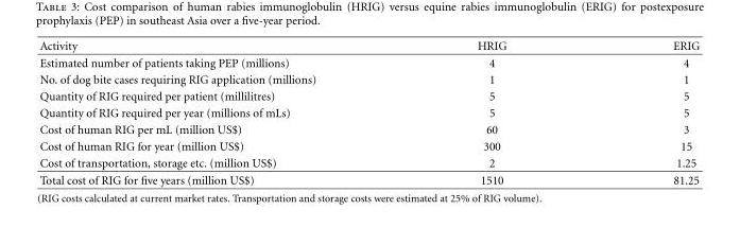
<table><thead><tr><td>Activity</td><td>HRIG</td><td>ERIG</td></tr></thead><tbody><tr><td>Estimated number of patients taking PEP (millions)</td><td>4</td><td>4</td></tr><tr><td>No. of dog bite cases requiring RIG application (millions)</td><td>1</td><td>1</td></tr><tr><td>Quantity of RIG required per patient (millilitres)</td><td>5</td><td>5</td></tr><tr><td>Quantity of RIG required per year (millions of mLs)</td><td>5</td><td>5</td></tr><tr><td>Cost of human RIG per mL (million US$)</td><td>60</td><td>3</td></tr><tr><td>Cost of human RIG for year (million US$)</td><td>300</td><td>15</td></tr><tr><td>Cost of transportation, storage etc. (million US$)</td><td>2</td><td>1.25</td></tr><tr><td>Total cost of RIG for five years (million US$)</td><td>1510</td><td>81.25</td></tr></tbody></table>